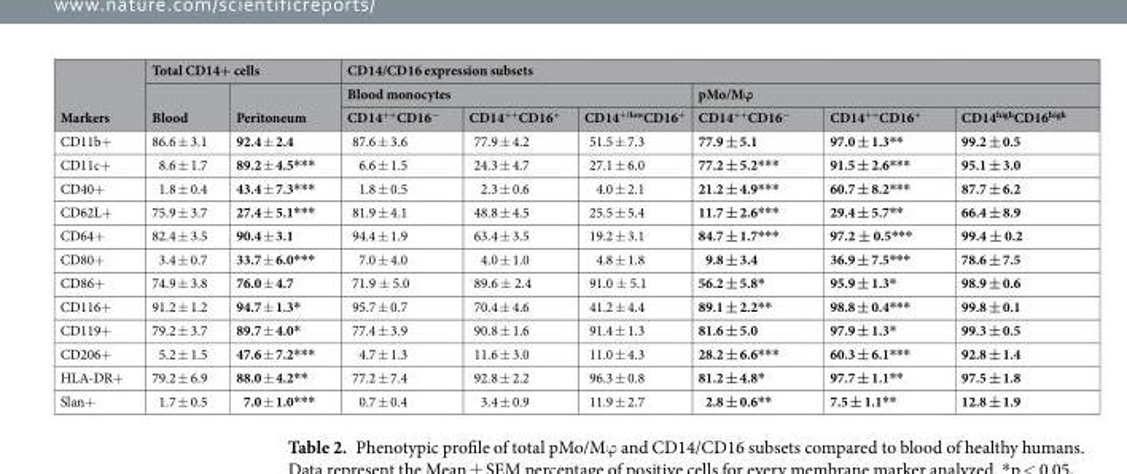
<table><thead><tr><td rowspan="3">Markers</td><td colspan="2">Total CD14+ cells</td><td colspan="6">CD14/CD16 expression subsets</td></tr><tr><td rowspan="2">Blood</td><td rowspan="2">Peritoneum</td><td colspan="3">Blood monocytes</td><td colspan="3">pMo/Mϕ</td></tr><tr><td>CD14<sup>++</sup>CD16<sup>−</sup></td><td>CD14<sup>++</sup>CD16<sup>+</sup></td><td>CD14<sup>+/low</sup>CD16<sup>+</sup></td><td>CD14<sup>++</sup>CD16<sup>−</sup></td><td>CD14<sup>++</sup>CD16<sup>+</sup></td><td>CD14<sup>high</sup>CD16<sup>high</sup></td></tr></thead><tbody><tr><td>CD11b+</td><td>86.6 ± 3.1</td><td>92.4 ± 2.4</td><td>87.6 ± 3.6</td><td>77.9 ± 4.2</td><td>51.5 ± 7.3</td><td>77.9 ± 5.1</td><td>97.0 ± 1.3**</td><td>99.2 ± 0.5</td></tr><tr><td>CD11c+</td><td>8.6 ± 1.7</td><td>89.2 ± 4.5***</td><td>6.6 ± 1.5</td><td>24.3 ± 4.7</td><td>27.1 ± 6.0</td><td>77.2 ± 5.2***</td><td>91.5 ± 2.6***</td><td>95.1 ± 3.0</td></tr><tr><td>CD40+</td><td>1.8 ± 0.4</td><td>43.4 ± 7.3***</td><td>1.8 ± 0.5</td><td>2.3 ± 0.6</td><td>4.0 ± 2.1</td><td>21.2 ± 4.9***</td><td>60.7 ± 8.2***</td><td>87.7 ± 6.2</td></tr><tr><td>CD62L+</td><td>75.9 ± 3.7</td><td>27.4 ± 5.1***</td><td>81.9 ± 4.1</td><td>48.8 ± 4.5</td><td>25.5 ± 5.4</td><td>11.7 ± 2.6***</td><td>29.4 ± 5.7**</td><td>66.4 ± 8.9</td></tr><tr><td>CD64+</td><td>82.4 ± 3.5</td><td>90.4 ± 3.1</td><td>94.4 ± 1.9</td><td>63.4 ± 3.5</td><td>19.2 ± 3.1</td><td>84.7 ± 1.7***</td><td>97.2 ± 0.5***</td><td>99.4 ± 0.2</td></tr><tr><td>CD80+</td><td>3.4 ± 0.7</td><td>33.7 ± 6.0***</td><td>7.0 ± 4.0</td><td>4.0 ± 1.0</td><td>4.8 ± 1.8</td><td>9.8 ± 3.4</td><td>36.9 ± 7.5***</td><td>78.6 ± 7.5</td></tr><tr><td>CD86+</td><td>74.9 ± 3.8</td><td>76.0 ± 4.7</td><td>71.9 ± 5.0</td><td>89.6 ± 2.4</td><td>91.0 ± 5.1</td><td>56.2 ± 5.8*</td><td>95.9 ± 1.3*</td><td>98.9 ± 0.6</td></tr><tr><td>CD116+</td><td>91.2 ± 1.2</td><td>94.7 ± 1.3*</td><td>95.7 ± 0.7</td><td>70.4 ± 4.6</td><td>41.2 ± 4.4</td><td>89.1 ± 2.2**</td><td>98.8 ± 0.4***</td><td>99.8 ± 0.1</td></tr><tr><td>CD119+</td><td>79.2 ± 3.7</td><td>89.7 ± 4.0*</td><td>77.4 ± 3.9</td><td>90.8 ± 1.6</td><td>91.4 ± 1.3</td><td>81.6 ± 5.0</td><td>97.9 ± 1.3*</td><td>99.3 ± 0.5</td></tr><tr><td>CD206+</td><td>5.2 ± 1.5</td><td>47.6 ± 7.2***</td><td>4.7 ± 1.3</td><td>11.6 ± 3.0</td><td>11.0 ± 4.3</td><td>28.2 ± 6.6***</td><td>60.3 ± 6.1***</td><td>92.8 ± 1.4</td></tr><tr><td>HLA-DR+</td><td>79.2 ± 6.9</td><td>88.0 ± 4.2**</td><td>77.2 ± 7.4</td><td>92.8 ± 2.2</td><td>96.3 ± 0.8</td><td>81.2 ± 4.8*</td><td>97.7 ± 1.1**</td><td>97.5 ± 1.8</td></tr><tr><td>Slan+</td><td>1.7 ± 0.5</td><td>7.0 ± 1.0***</td><td>0.7 ± 0.4</td><td>3.4 ± 0.9</td><td>11.9 ± 2.7</td><td>2.8 ± 0.6**</td><td>7.5 ± 1.1**</td><td>12.8 ± 1.9</td></tr></tbody></table>